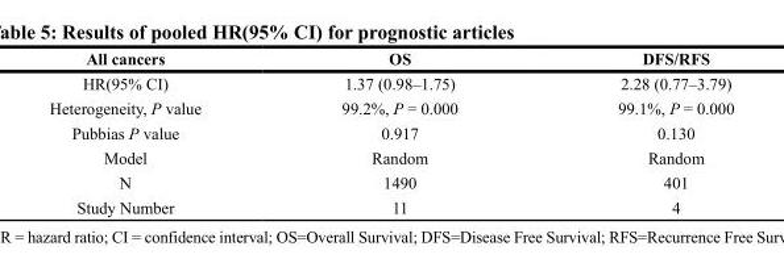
<table><thead><tr><td>All cancers</td><td>OS</td><td>DFS/RFS</td></tr></thead><tbody><tr><td>HR(95% CI)</td><td>1.37 (0.98–1.75)</td><td>2.28 (0.77–3.79)</td></tr><tr><td>Heterogeneity, P value</td><td>99.2%, P = 0.000</td><td>99.1%, P = 0.000</td></tr><tr><td>Pubbias P value</td><td>0.917</td><td>0.130</td></tr><tr><td>Model</td><td>Random</td><td>Random</td></tr><tr><td>N</td><td>1490</td><td>401</td></tr><tr><td>Study Number</td><td>11</td><td>4</td></tr></tbody></table>